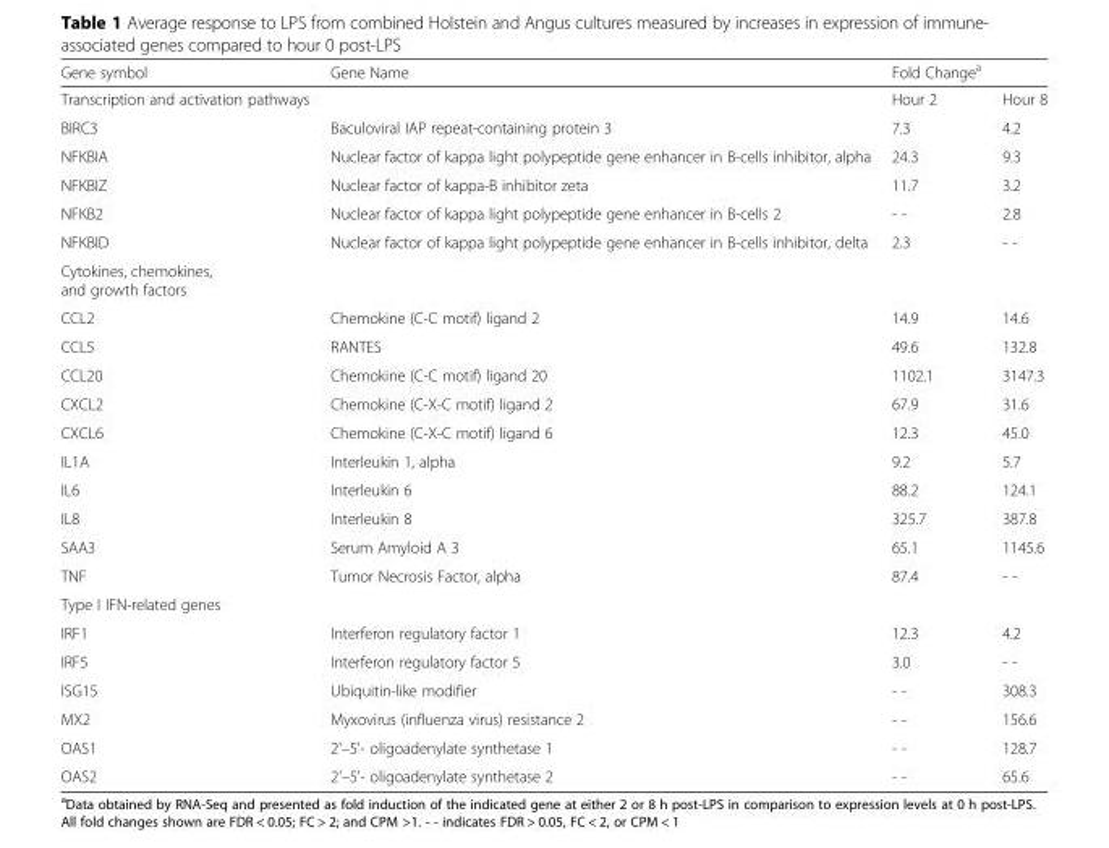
<table><thead><tr><td>Gene symbol</td><td>Gene Name</td><td>Fold Change<sup>a</sup></td><td></td></tr></thead><tbody><tr><td>Transcription and activation pathways</td><td></td><td>Hour 2</td><td>Hour 8</td></tr><tr><td>BIRC3</td><td>Baculoviral IAP repeat-containing protein 3</td><td>7.3</td><td>4.2</td></tr><tr><td>NFKBIA</td><td>Nuclear factor of kappa light polypeptide gene enhancer in B-cells inhibitor, alpha</td><td>24.3</td><td>9.3</td></tr><tr><td>NFKBIZ</td><td>Nuclear factor of kappa-B inhibitor zeta</td><td>11.7</td><td>3.2</td></tr><tr><td>NFKB2</td><td>Nuclear factor of kappa light polypeptide gene enhancer in B-cells 2</td><td>- -</td><td>2.8</td></tr><tr><td>NFKBID</td><td>Nuclear factor of kappa light polypeptide gene enhancer in B-cells inhibitor, delta</td><td>2.3</td><td>- -</td></tr><tr><td colspan="4">Cytokines, chemokines, and growth factors</td></tr><tr><td>CCL2</td><td>Chemokine (C-C motif) ligand 2</td><td>14.9</td><td>14.6</td></tr><tr><td>CCL5</td><td>RANTES</td><td>49.6</td><td>132.8</td></tr><tr><td>CCL20</td><td>Chemokine (C-C motif) ligand 20</td><td>1102.1</td><td>3147.3</td></tr><tr><td>CXCL2</td><td>Chemokine (C-X-C motif) ligand 2</td><td>67.9</td><td>31.6</td></tr><tr><td>CXCL6</td><td>Chemokine (C-X-C motif) ligand 6</td><td>12.3</td><td>45.0</td></tr><tr><td>IL1A</td><td>Interleukin 1, alpha</td><td>9.2</td><td>5.7</td></tr><tr><td>IL6</td><td>Interleukin 6</td><td>88.2</td><td>124.1</td></tr><tr><td>IL8</td><td>Interleukin 8</td><td>325.7</td><td>387.8</td></tr><tr><td>SAA3</td><td>Serum Amyloid A 3</td><td>65.1</td><td>1145.6</td></tr><tr><td>TNF</td><td>Tumor Necrosis Factor, alpha</td><td>87.4</td><td>- -</td></tr><tr><td colspan="4">Type I IFN-related genes</td></tr><tr><td>IRF1</td><td>Interferon regulatory factor 1</td><td>12.3</td><td>4.2</td></tr><tr><td>IRF5</td><td>Interferon regulatory factor 5</td><td>3.0</td><td>- -</td></tr><tr><td>ISG15</td><td>Ubiquitin-like modifier</td><td>- -</td><td>308.3</td></tr><tr><td>MX2</td><td>Myxovirus (influenza virus) resistance 2</td><td>- -</td><td>156.6</td></tr><tr><td>OAS1</td><td>2&#x27;–5&#x27;- oligoadenylate synthetase 1</td><td>- -</td><td>128.7</td></tr><tr><td>OAS2</td><td>2&#x27;–5&#x27;- oligoadenylate synthetase 2</td><td>- -</td><td>65.6</td></tr></tbody></table>